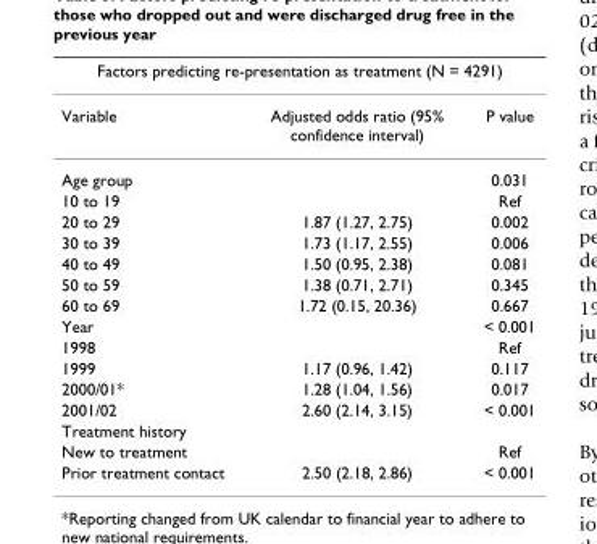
<table><thead><tr><td colspan="3">Factors predicting re-presentation as treatment (N = 4291)</td></tr><tr><td>Variable</td><td>Adjusted odds ratio (95% confidence interval)</td><td>P value</td></tr></thead><tbody><tr><td>Age group</td><td></td><td>0.031</td></tr><tr><td>10 to 19</td><td></td><td>Ref</td></tr><tr><td>20 to 29</td><td>1.87 (1.27, 2.75)</td><td>0.002</td></tr><tr><td>30 to 39</td><td>1.73 (1.17, 2.55)</td><td>0.006</td></tr><tr><td>40 to 49</td><td>1.50 (0.95, 2.38)</td><td>0.081</td></tr><tr><td>50 to 59</td><td>1.38 (0.71, 2.71)</td><td>0.345</td></tr><tr><td>60 to 69</td><td>1.72 (0.15, 20.36)</td><td>0.667</td></tr><tr><td>Year</td><td></td><td>&lt; 0.001</td></tr><tr><td>1998</td><td></td><td>Ref</td></tr><tr><td>1999</td><td>1.17 (0.96, 1.42)</td><td>0.117</td></tr><tr><td>2000/01*</td><td>1.28 (1.04, 1.56)</td><td>0.017</td></tr><tr><td>2001/02</td><td>2.60 (2.14, 3.15)</td><td>&lt; 0.001</td></tr><tr><td colspan="3">Treatment history</td></tr><tr><td>New to treatment</td><td></td><td>Ref</td></tr><tr><td>Prior treatment contact</td><td>2.50 (2.18, 2.86)</td><td>&lt; 0.001</td></tr></tbody></table>